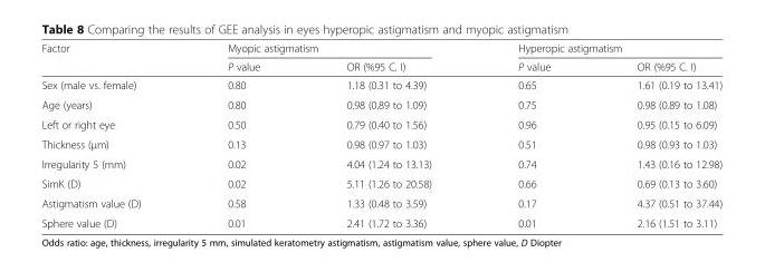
<table><thead><tr><td rowspan="2">Factor</td><td colspan="2">Myopic astigmatism</td><td colspan="2">Hyperopic astigmatism</td></tr><tr><td>P value</td><td>OR (%95 C. I)</td><td>P value</td><td>OR (%95 C. I)</td></tr></thead><tbody><tr><td>Sex (male vs. female)</td><td>0.80</td><td>1.18 (0.31 to 4.39)</td><td>0.65</td><td>1.61 (0.19 to 13.41)</td></tr><tr><td>Age (years)</td><td>0.80</td><td>0.98 (0.89 to 1.09)</td><td>0.75</td><td>0.98 (0.89 to 1.08)</td></tr><tr><td>Left or right eye</td><td>0.50</td><td>0.79 (0.40 to 1.56)</td><td>0.96</td><td>0.95 (0.15 to 6.09)</td></tr><tr><td>Thickness (μm)</td><td>0.13</td><td>0.98 (0.97 to 1.03)</td><td>0.51</td><td>0.98 (0.93 to 1.03)</td></tr><tr><td>Irregularity 5 (mm)</td><td>0.02</td><td>4.04 (1.24 to 13.13)</td><td>0.74</td><td>1.43 (0.16 to 12.98)</td></tr><tr><td>SimK (D)</td><td>0.02</td><td>5.11 (1.26 to 20.58)</td><td>0.66</td><td>0.69 (0.13 to 3.60)</td></tr><tr><td>Astigmatism value (D)</td><td>0.58</td><td>1.33 (0.48 to 3.59)</td><td>0.17</td><td>4.37 (0.51 to 37.44)</td></tr><tr><td>Sphere value (D)</td><td>0.01</td><td>2.41 (1.72 to 3.36)</td><td>0.01</td><td>2.16 (1.51 to 3.11)</td></tr></tbody></table>